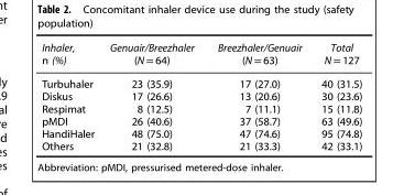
<table><thead><tr><td>Inhaler, n (%)</td><td>Genuair/Breezhaler (N = 64)</td><td>Breezhaler/Genuair (N = 63)</td><td>Total N = 127</td></tr></thead><tbody><tr><td>Turbuhaler</td><td>23 (35.9)</td><td>17 (27.0)</td><td>40 (31.5)</td></tr><tr><td>Diskus</td><td>17 (26.6)</td><td>13 (20.6)</td><td>30 (23.6)</td></tr><tr><td>Respimat</td><td>8 (12.5)</td><td>7 (11.1)</td><td>15 (11.8)</td></tr><tr><td>pMDI</td><td>26 (40.6)</td><td>37 (58.7)</td><td>63 (49.6)</td></tr><tr><td>HandiHaler</td><td>48 (75.0)</td><td>47 (74.6)</td><td>95 (74.8)</td></tr><tr><td>Others</td><td>21 (32.8)</td><td>21 (33.3)</td><td>42 (33.1)</td></tr></tbody></table>